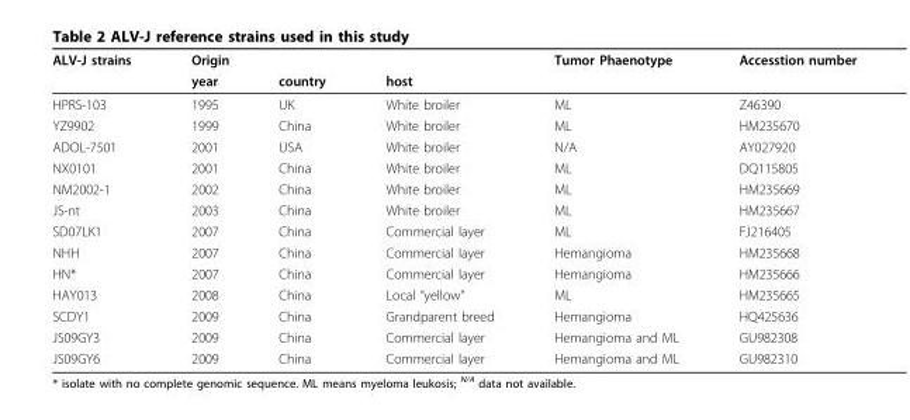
<table><thead><tr><td rowspan="2">ALV-J strains</td><td colspan="3">Origin</td><td rowspan="2">Tumor Phaenotype</td><td rowspan="2">Accesstion number</td></tr><tr><td>year</td><td>country</td><td>host</td></tr></thead><tbody><tr><td>HPRS-103</td><td>1995</td><td>UK</td><td>White broiler</td><td>ML</td><td>Z46390</td></tr><tr><td>YZ9902</td><td>1999</td><td>China</td><td>White broiler</td><td>ML</td><td>HM235670</td></tr><tr><td>ADOL-7501</td><td>2001</td><td>USA</td><td>White broiler</td><td>N/A</td><td>AY027920</td></tr><tr><td>NX0101</td><td>2001</td><td>China</td><td>White broiler</td><td>ML</td><td>DQ115805</td></tr><tr><td>NM2002-1</td><td>2002</td><td>China</td><td>White broiler</td><td>ML</td><td>HM235669</td></tr><tr><td>JS-nt</td><td>2003</td><td>China</td><td>White broiler</td><td>ML</td><td>HM235667</td></tr><tr><td>SD07LK1</td><td>2007</td><td>China</td><td>Commercial layer</td><td>ML</td><td>FJ216405</td></tr><tr><td>NHH</td><td>2007</td><td>China</td><td>Commercial layer</td><td>Hemangioma</td><td>HM235668</td></tr><tr><td>HN*</td><td>2007</td><td>China</td><td>Commercial layer</td><td>Hemangioma</td><td>HM235666</td></tr><tr><td>HAY013</td><td>2008</td><td>China</td><td>Local “yellow”</td><td>ML</td><td>HM235665</td></tr><tr><td>SCDY1</td><td>2009</td><td>China</td><td>Grandparent breed</td><td>Hemangioma</td><td>HQ425636</td></tr><tr><td>JS09GY3</td><td>2009</td><td>China</td><td>Commercial layer</td><td>Hemangioma and ML</td><td>GU982308</td></tr><tr><td>JS09GY6</td><td>2009</td><td>China</td><td>Commercial layer</td><td>Hemangioma and ML</td><td>GU982310</td></tr></tbody></table>